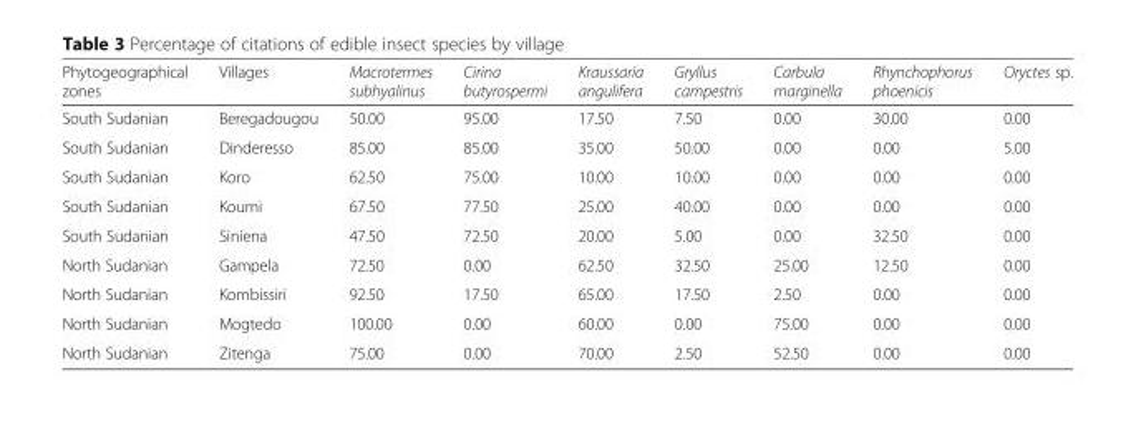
<table><thead><tr><td>Phytogeographical zones</td><td>Villages</td><td>Macrotermes subhyalinus</td><td>Cirina butyrospermi</td><td>Kraussaria angulifera</td><td>Gryllus campestris</td><td>Carbula marginella</td><td>Rhynchophorus phoenicis</td><td>Oryctes sp.</td></tr></thead><tbody><tr><td>South Sudanian</td><td>Beregadougou</td><td>50.00</td><td>95.00</td><td>17.50</td><td>7.50</td><td>0.00</td><td>30.00</td><td>0.00</td></tr><tr><td>South Sudanian</td><td>Dinderesso</td><td>85.00</td><td>85.00</td><td>35.00</td><td>50.00</td><td>0.00</td><td>0.00</td><td>5.00</td></tr><tr><td>South Sudanian</td><td>Koro</td><td>62.50</td><td>75.00</td><td>10.00</td><td>10.00</td><td>0.00</td><td>0.00</td><td>0.00</td></tr><tr><td>South Sudanian</td><td>Koumi</td><td>67.50</td><td>77.50</td><td>25.00</td><td>40.00</td><td>0.00</td><td>0.00</td><td>0.00</td></tr><tr><td>South Sudanian</td><td>Siniena</td><td>47.50</td><td>72.50</td><td>20.00</td><td>5.00</td><td>0.00</td><td>32.50</td><td>0.00</td></tr><tr><td>North Sudanian</td><td>Gampela</td><td>72.50</td><td>0.00</td><td>62.50</td><td>32.50</td><td>25.00</td><td>12.50</td><td>0.00</td></tr><tr><td>North Sudanian</td><td>Kombissiri</td><td>92.50</td><td>17.50</td><td>65.00</td><td>17.50</td><td>2.50</td><td>0.00</td><td>0.00</td></tr><tr><td>North Sudanian</td><td>Mogtedo</td><td>100.00</td><td>0.00</td><td>60.00</td><td>0.00</td><td>75.00</td><td>0.00</td><td>0.00</td></tr><tr><td>North Sudanian</td><td>Zitenga</td><td>75.00</td><td>0.00</td><td>70.00</td><td>2.50</td><td>52.50</td><td>0.00</td><td>0.00</td></tr></tbody></table>